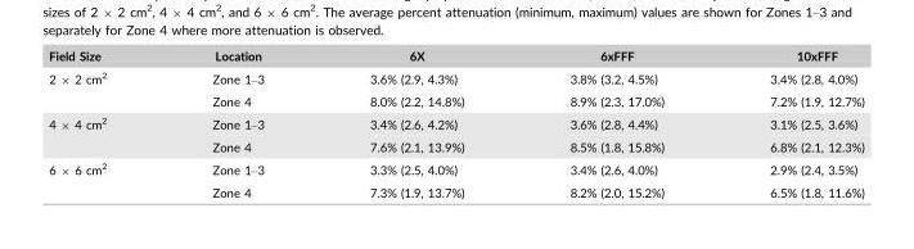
<table><thead><tr><td>Field Size</td><td>Location</td><td>6X</td><td>6xFFF</td><td>10xFFF</td></tr></thead><tbody><tr><td rowspan="2">2 × 2 cm<sup>2</sup></td><td>Zone 1–3</td><td>3.6% (2.9, 4.3%)</td><td>3.8% (3.2, 4.5%)</td><td>3.4% (2.8, 4.0%)</td></tr><tr><td>Zone 4</td><td>8.0% (2.2, 14.8%)</td><td>8.9% (2.3, 17.0%)</td><td>7.2% (1.9, 12.7%)</td></tr><tr><td rowspan="2">4 × 4 cm<sup>2</sup></td><td>Zone 1–3</td><td>3.4% (2.6, 4.2%)</td><td>3.6% (2.8, 4.4%)</td><td>3.1% (2.5, 3.6%)</td></tr><tr><td>Zone 4</td><td>7.6% (2.1, 13.9%)</td><td>8.5% (1.8, 15.8%)</td><td>6.8% (2.1, 12.3%)</td></tr><tr><td rowspan="2">6 × 6 cm<sup>2</sup></td><td>Zone 1–3</td><td>3.3% (2.5, 4.0%)</td><td>3.4% (2.6, 4.0%)</td><td>2.9% (2.4, 3.5%)</td></tr><tr><td>Zone 4</td><td>7.3% (1.9, 13.7%)</td><td>8.2% (2.0, 15.2%)</td><td>6.5% (1.8, 11.6%)</td></tr></tbody></table>